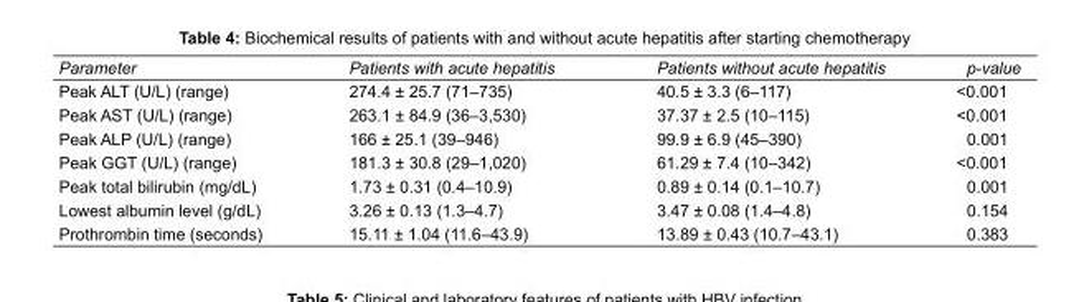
<table><tbody><tr><td>Parameter</td><td>Patients with acute hepatitis</td><td>Patients without acute hepatitis</td><td>p-value</td></tr><tr><td>Peak ALT (U/L) (range)</td><td>274.4 ± 25.7 (71–735)</td><td>40.5 ± 3.3 (6–117)</td><td>&lt;0.001</td></tr><tr><td>Peak AST (U/L) (range)</td><td>263.1 ± 84.9 (36–3,530)</td><td>37.37 ± 2.5 (10–115)</td><td>&lt;0.001</td></tr><tr><td>Peak ALP (U/L) (range)</td><td>166 ± 25.1 (39–946)</td><td>99.9 ± 6.9 (45–390)</td><td>0.001</td></tr><tr><td>Peak GGT (U/L) (range)</td><td>181.3 ± 30.8 (29–1,020)</td><td>61.29 ± 7.4 (10–342)</td><td>&lt;0.001</td></tr><tr><td>Peak total bilirubin (mg/dL)</td><td>1.73 ± 0.31 (0.4–10.9)</td><td>0.89 ± 0.14 (0.1–10.7)</td><td>0.001</td></tr><tr><td>Lowest albumin level (g/dL)</td><td>3.26 ± 0.13 (1.3–4.7)</td><td>3.47 ± 0.08 (1.4–4.8)</td><td>0.154</td></tr><tr><td>Prothrombin time (seconds)</td><td>15.11 ± 1.04 (11.6–43.9)</td><td>13.89 ± 0.43 (10.7–43.1)</td><td>0.383</td></tr></tbody></table>